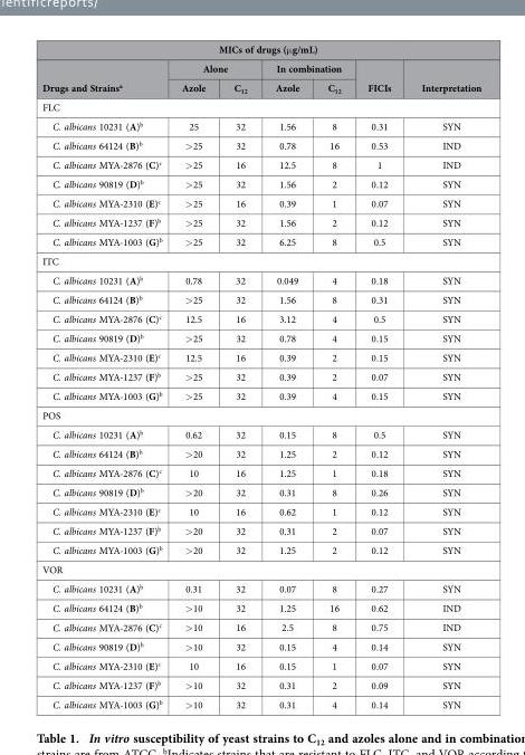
<table><thead><tr><td colspan="7">MICs of drugs (μ g/mL)</td></tr><tr><td rowspan="2">Drugs and Strains<sup>a</sup></td><td colspan="2">Alone</td><td colspan="2">In combination</td><td rowspan="2">FICIs</td><td rowspan="2">Interpretation</td></tr><tr><td>Azole</td><td>C<sub>12</sub></td><td>Azole</td><td>C<sub>12</sub></td></tr></thead><tbody><tr><td colspan="7">FLC</td></tr><tr><td>C. albicans 10231 (A)<sup>b</sup></td><td>25</td><td>32</td><td>1.56</td><td>8</td><td>0.31</td><td>SYN</td></tr><tr><td>C. albicans 64124 (B)<sup>b</sup></td><td>&gt; 25</td><td>32</td><td>0.78</td><td>16</td><td>0.53</td><td>IND</td></tr><tr><td>C. albicans MYA-2876 (C)<sup>c</sup></td><td>&gt; 25</td><td>16</td><td>12.5</td><td>8</td><td>1</td><td>IND</td></tr><tr><td>C. albicans 90819 (D)<sup>b</sup></td><td>&gt; 25</td><td>32</td><td>1.56</td><td>2</td><td>0.12</td><td>SYN</td></tr><tr><td>C. albicans MYA-2310 (E)<sup>c</sup></td><td>&gt; 25</td><td>16</td><td>0.39</td><td>1</td><td>0.07</td><td>SYN</td></tr><tr><td>C. albicans MYA-1237 (F)<sup>b</sup></td><td>&gt; 25</td><td>32</td><td>1.56</td><td>2</td><td>0.12</td><td>SYN</td></tr><tr><td>C. albicans MYA-1003 (G)<sup>b</sup></td><td>&gt; 25</td><td>32</td><td>6.25</td><td>8</td><td>0.5</td><td>SYN</td></tr><tr><td colspan="7">ITC</td></tr><tr><td>C. albicans 10231 (A)<sup>b</sup></td><td>0.78</td><td>32</td><td>0.049</td><td>4</td><td>0.18</td><td>SYN</td></tr><tr><td>C. albicans 64124 (B)<sup>b</sup></td><td>&gt; 25</td><td>32</td><td>1.56</td><td>8</td><td>0.31</td><td>SYN</td></tr><tr><td>C. albicans MYA-2876 (C)<sup>c</sup></td><td>12.5</td><td>16</td><td>3.12</td><td>4</td><td>0.5</td><td>SYN</td></tr><tr><td>C. albicans 90819 (D)<sup>b</sup></td><td>&gt; 25</td><td>32</td><td>0.78</td><td>4</td><td>0.15</td><td>SYN</td></tr><tr><td>C. albicans MYA-2310 (E)<sup>c</sup></td><td>12.5</td><td>16</td><td>0.39</td><td>2</td><td>0.15</td><td>SYN</td></tr><tr><td>C. albicans MYA-1237 (F)<sup>b</sup></td><td>&gt; 25</td><td>32</td><td>0.39</td><td>2</td><td>0.07</td><td>SYN</td></tr><tr><td>C. albicans MYA-1003 (G)<sup>b</sup></td><td>&gt; 25</td><td>32</td><td>0.39</td><td>4</td><td>0.15</td><td>SYN</td></tr><tr><td colspan="7">POS</td></tr><tr><td>C. albicans 10231 (A)<sup>b</sup></td><td>0.62</td><td>32</td><td>0.15</td><td>8</td><td>0.5</td><td>SYN</td></tr><tr><td>C. albicans 64124 (B)<sup>b</sup></td><td>&gt; 20</td><td>32</td><td>1.25</td><td>2</td><td>0.12</td><td>SYN</td></tr><tr><td>C. albicans MYA-2876 (C)<sup>c</sup></td><td>10</td><td>16</td><td>1.25</td><td>1</td><td>0.18</td><td>SYN</td></tr><tr><td>C. albicans 90819 (D)<sup>b</sup></td><td>&gt; 20</td><td>32</td><td>0.31</td><td>8</td><td>0.26</td><td>SYN</td></tr><tr><td>C. albicans MYA-2310 (E)<sup>c</sup></td><td>10</td><td>16</td><td>0.62</td><td>1</td><td>0.12</td><td>SYN</td></tr><tr><td>C. albicans MYA-1237 (F)<sup>b</sup></td><td>&gt; 20</td><td>32</td><td>0.31</td><td>2</td><td>0.07</td><td>SYN</td></tr><tr><td>C. albicans MYA-1003 (G)<sup>b</sup></td><td>&gt; 20</td><td>32</td><td>1.25</td><td>2</td><td>0.12</td><td>SYN</td></tr><tr><td colspan="7">VOR</td></tr><tr><td>C. albicans 10231 (A)<sup>b</sup></td><td>0.31</td><td>32</td><td>0.07</td><td>8</td><td>0.27</td><td>SYN</td></tr><tr><td>C. albicans 64124 (B)<sup>b</sup></td><td>&gt; 10</td><td>32</td><td>1.25</td><td>16</td><td>0.62</td><td>IND</td></tr><tr><td>C. albicans MYA-2876 (C)<sup>c</sup></td><td>&gt; 10</td><td>16</td><td>2.5</td><td>8</td><td>0.75</td><td>IND</td></tr><tr><td>C. albicans 90819 (D)<sup>b</sup></td><td>&gt; 10</td><td>32</td><td>0.15</td><td>4</td><td>0.14</td><td>SYN</td></tr><tr><td>C. albicans MYA-2310 (E)<sup>c</sup></td><td>10</td><td>16</td><td>0.15</td><td>1</td><td>0.07</td><td>SYN</td></tr><tr><td>C. albicans MYA-1237 (F)<sup>b</sup></td><td>&gt; 10</td><td>32</td><td>0.31</td><td>2</td><td>0.09</td><td>SYN</td></tr><tr><td>C. albicans MYA-1003 (G)<sup>b</sup></td><td>&gt; 10</td><td>32</td><td>0.31</td><td>4</td><td>0.14</td><td>SYN</td></tr></tbody></table>